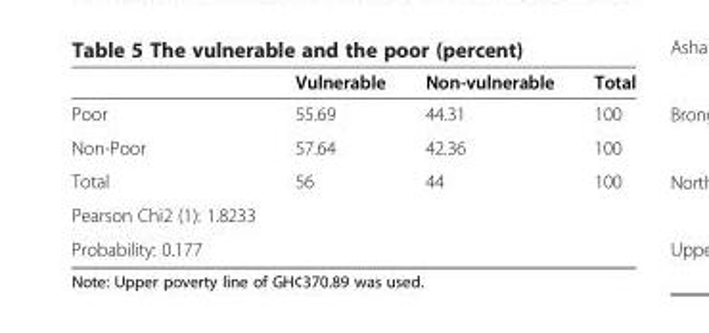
<table><thead><tr><td></td><td>Vulnerable</td><td>Non-vulnerable</td><td>Total</td></tr></thead><tbody><tr><td>Poor</td><td>55.69</td><td>44.31</td><td>100</td></tr><tr><td>Non-Poor</td><td>57.64</td><td>42.36</td><td>100</td></tr><tr><td>Total</td><td>56</td><td>44</td><td>100</td></tr><tr><td colspan="4">Pearson Chi2 (1): 1.8233</td></tr><tr><td>Probability: 0.177</td><td></td><td></td><td></td></tr></tbody></table>